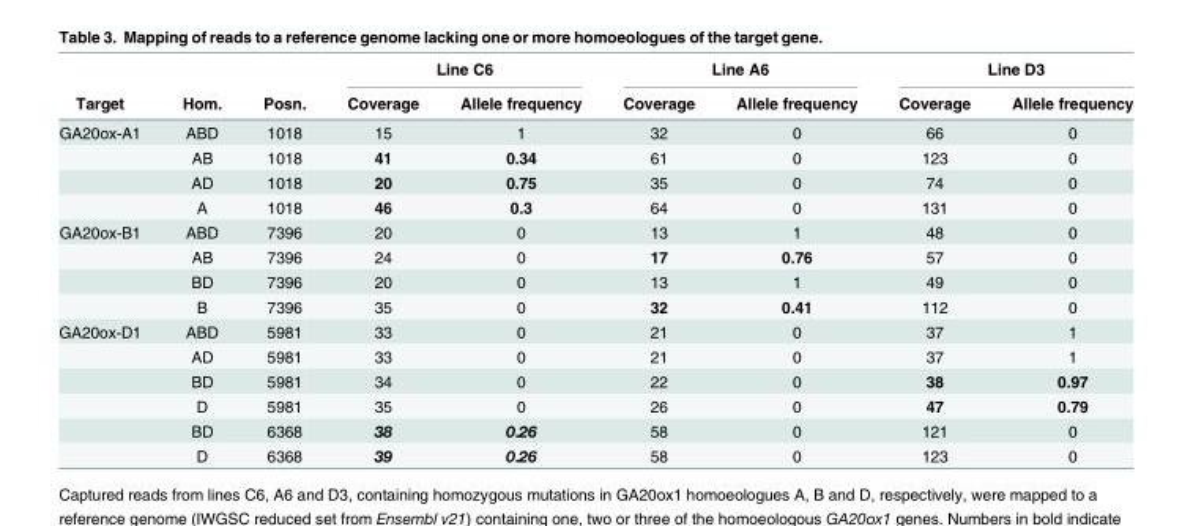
<table><thead><tr><td rowspan="2">Target</td><td rowspan="2">Hom.</td><td rowspan="2">Posn.</td><td colspan="2">Line C6</td><td colspan="2">Line A6</td><td colspan="2">Line D3</td></tr><tr><td>Coverage</td><td>Allele frequency</td><td>Coverage</td><td>Allele frequency</td><td>Coverage</td><td>Allele frequency</td></tr></thead><tbody><tr><td rowspan="4">GA20ox-A1</td><td>ABD</td><td>1018</td><td>15</td><td>1</td><td>32</td><td>0</td><td>66</td><td>0</td></tr><tr><td>AB</td><td>1018</td><td>41</td><td>0.34</td><td>61</td><td>0</td><td>123</td><td>0</td></tr><tr><td>AD</td><td>1018</td><td>20</td><td>0.75</td><td>35</td><td>0</td><td>74</td><td>0</td></tr><tr><td>A</td><td>1018</td><td>46</td><td>0.3</td><td>64</td><td>0</td><td>131</td><td>0</td></tr><tr><td rowspan="4">GA20ox-B1</td><td>ABD</td><td>7396</td><td>20</td><td>0</td><td>13</td><td>1</td><td>48</td><td>0</td></tr><tr><td>AB</td><td>7396</td><td>24</td><td>0</td><td>17</td><td>0.76</td><td>57</td><td>0</td></tr><tr><td>BD</td><td>7396</td><td>20</td><td>0</td><td>13</td><td>1</td><td>49</td><td>0</td></tr><tr><td>B</td><td>7396</td><td>35</td><td>0</td><td>32</td><td>0.41</td><td>112</td><td>0</td></tr><tr><td rowspan="6">GA20ox-D1</td><td>ABD</td><td>5981</td><td>33</td><td>0</td><td>21</td><td>0</td><td>37</td><td>1</td></tr><tr><td>AD</td><td>5981</td><td>33</td><td>0</td><td>21</td><td>0</td><td>37</td><td>1</td></tr><tr><td>BD</td><td>5981</td><td>34</td><td>0</td><td>22</td><td>0</td><td>38</td><td>0.97</td></tr><tr><td>D</td><td>5981</td><td>35</td><td>0</td><td>26</td><td>0</td><td>47</td><td>0.79</td></tr><tr><td>BD</td><td>6368</td><td>38</td><td>0.26</td><td>58</td><td>0</td><td>121</td><td>0</td></tr><tr><td>D</td><td>6368</td><td>39</td><td>0.26</td><td>58</td><td>0</td><td>123</td><td>0</td></tr></tbody></table>